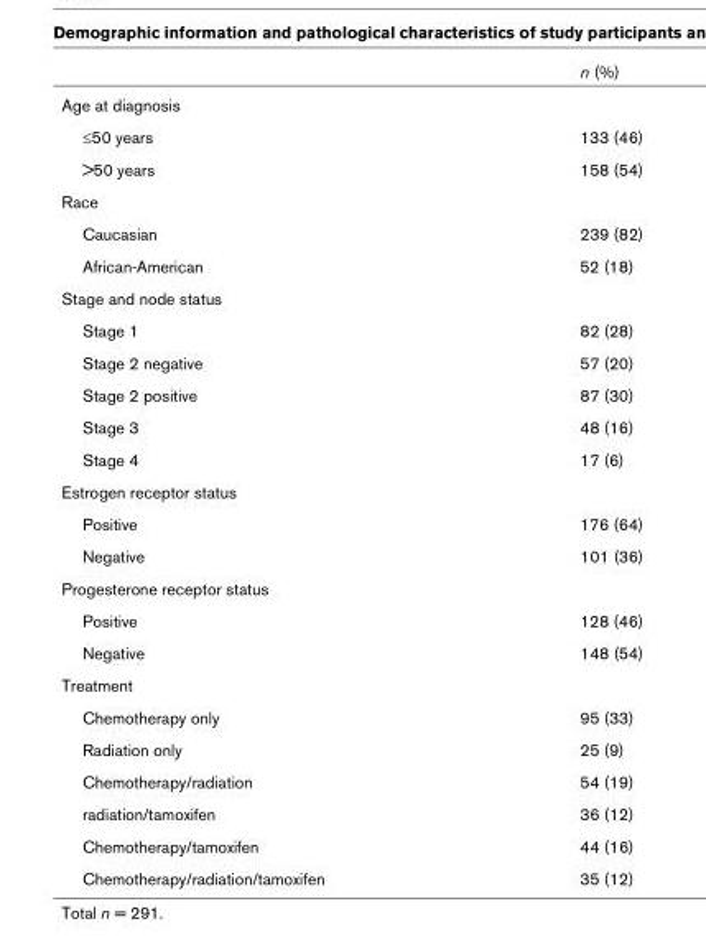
<table><thead><tr><td></td><td>n (%)</td></tr></thead><tbody><tr><td colspan="2">Age at diagnosis</td></tr><tr><td>≤50 years</td><td>133 (46)</td></tr><tr><td>&gt;50 years</td><td>158 (54)</td></tr><tr><td colspan="2">Race</td></tr><tr><td>Caucasian</td><td>239 (82)</td></tr><tr><td>African-American</td><td>52 (18)</td></tr><tr><td colspan="2">Stage and node status</td></tr><tr><td>Stage 1</td><td>82 (28)</td></tr><tr><td>Stage 2 negative</td><td>57 (20)</td></tr><tr><td>Stage 2 positive</td><td>87 (30)</td></tr><tr><td>Stage 3</td><td>48 (16)</td></tr><tr><td>Stage 4</td><td>17 (6)</td></tr><tr><td colspan="2">Estrogen receptor status</td></tr><tr><td>Positive</td><td>176 (64)</td></tr><tr><td>Negative</td><td>101 (36)</td></tr><tr><td colspan="2">Progesterone receptor status</td></tr><tr><td>Positive</td><td>128 (46)</td></tr><tr><td>Negative</td><td>148 (54)</td></tr><tr><td colspan="2">Treatment</td></tr><tr><td>Chemotherapy only</td><td>95 (33)</td></tr><tr><td>Radiation only</td><td>25 (9)</td></tr><tr><td>Chemotherapy/radiation</td><td>54 (19)</td></tr><tr><td>radiation/tamoxifen</td><td>36 (12)</td></tr><tr><td>Chemotherapy/tamoxifen</td><td>44 (16)</td></tr><tr><td>Chemotherapy/radiation/tamoxifen</td><td>35 (12)</td></tr></tbody></table>